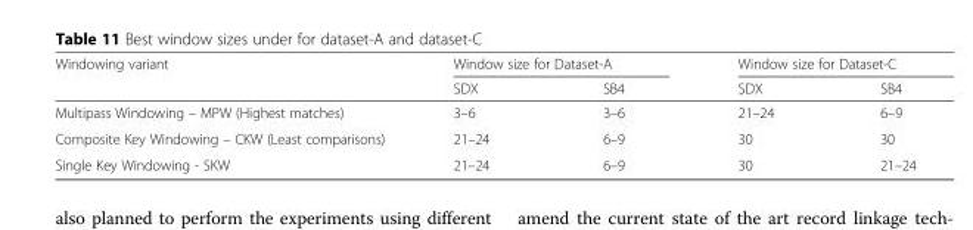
<table><thead><tr><td rowspan="2">Windowing variant</td><td colspan="2">Window size for Dataset-A</td><td colspan="2">Window size for Dataset-C</td></tr><tr><td>SDX</td><td>SB4</td><td>SDX</td><td>SB4</td></tr></thead><tbody><tr><td>Multipass Windowing – MPW (Highest matches)</td><td>3–6</td><td>3–6</td><td>21–24</td><td>6–9</td></tr><tr><td>Composite Key Windowing – CKW (Least comparisons)</td><td>21–24</td><td>6–9</td><td>30</td><td>30</td></tr><tr><td>Single Key Windowing - SKW</td><td>21–24</td><td>6–9</td><td>30</td><td>21–24</td></tr></tbody></table>